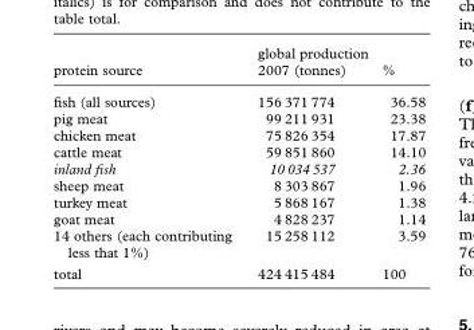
<table><thead><tr><td>protein source</td><td>global production 2007 (tonnes)</td><td>%</td></tr></thead><tbody><tr><td>fish (all sources)</td><td>156 371 774</td><td>36.58</td></tr><tr><td>pig meat</td><td>99 211 931</td><td>23.38</td></tr><tr><td>chicken meat</td><td>75 826 354</td><td>17.87</td></tr><tr><td>cattle meat</td><td>59 851 860</td><td>14.10</td></tr><tr><td>inland fish</td><td>10 034 537</td><td>2.36</td></tr><tr><td>sheep meat</td><td>8 303 867</td><td>1.96</td></tr><tr><td>turkey meat</td><td>5 868 167</td><td>1.38</td></tr><tr><td>goat meat</td><td>4 828 237</td><td>1.14</td></tr><tr><td>14 others (each contributing less that 1%)</td><td>15 258 112</td><td>3.59</td></tr><tr><td>total</td><td>424 415 484</td><td>100</td></tr></tbody></table>